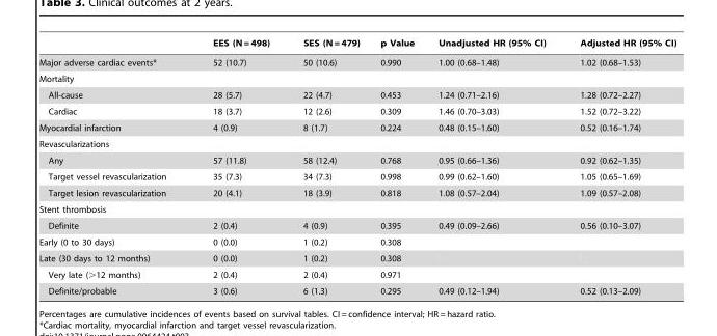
<table><thead><tr><td></td><td>EES (N = 498)</td><td>SES (N = 479)</td><td>p Value</td><td>Unadjusted HR (95% CI)</td><td>Adjusted HR (95% CI)</td></tr></thead><tbody><tr><td>Major adverse cardiac events*</td><td>52 (10.7)</td><td>50 (10.6)</td><td>0.990</td><td>1.00 (0.68–1.48)</td><td>1.02 (0.68–1.53)</td></tr><tr><td colspan="6">Mortality</td></tr><tr><td>All-cause</td><td>28 (5.7)</td><td>22 (4.7)</td><td>0.453</td><td>1.24 (0.71–2.16)</td><td>1.28 (0.72–2.27)</td></tr><tr><td>Cardiac</td><td>18 (3.7)</td><td>12 (2.6)</td><td>0.309</td><td>1.46 (0.70–3.03)</td><td>1.52 (0.72–3.22)</td></tr><tr><td>Myocardial infarction</td><td>4 (0.9)</td><td>8 (1.7)</td><td>0.224</td><td>0.48 (0.15–1.60)</td><td>0.52 (0.16–1.74)</td></tr><tr><td colspan="6">Revascularizations</td></tr><tr><td>Any</td><td>57 (11.8)</td><td>58 (12.4)</td><td>0.768</td><td>0.95 (0.66–1.36)</td><td>0.92 (0.62–1.35)</td></tr><tr><td>Target vessel revascularization</td><td>35 (7.3)</td><td>34 (7.3)</td><td>0.998</td><td>0.99 (0.62–1.60)</td><td>1.05 (0.65–1.69)</td></tr><tr><td>Target lesion revascularization</td><td>20 (4.1)</td><td>18 (3.9)</td><td>0.818</td><td>1.08 (0.57–2.04)</td><td>1.09 (0.57–2.08)</td></tr><tr><td colspan="6">Stent thrombosis</td></tr><tr><td>Definite</td><td>2 (0.4)</td><td>4 (0.9)</td><td>0.395</td><td>0.49 (0.09–2.66)</td><td>0.56 (0.10–3.07)</td></tr><tr><td>Early (0 to 30 days)</td><td>0 (0.0)</td><td>1 (0.2)</td><td>0.308</td><td></td><td></td></tr><tr><td>Late (30 days to 12 months)</td><td>0 (0.0)</td><td>1 (0.2)</td><td>0.308</td><td></td><td></td></tr><tr><td>Very late (&gt;12 months)</td><td>2 (0.4)</td><td>2 (0.4)</td><td>0.971</td><td></td><td></td></tr><tr><td>Definite/probable</td><td>3 (0.6)</td><td>6 (1.3)</td><td>0.295</td><td>0.49 (0.12–1.94)</td><td>0.52 (0.13–2.09)</td></tr></tbody></table>